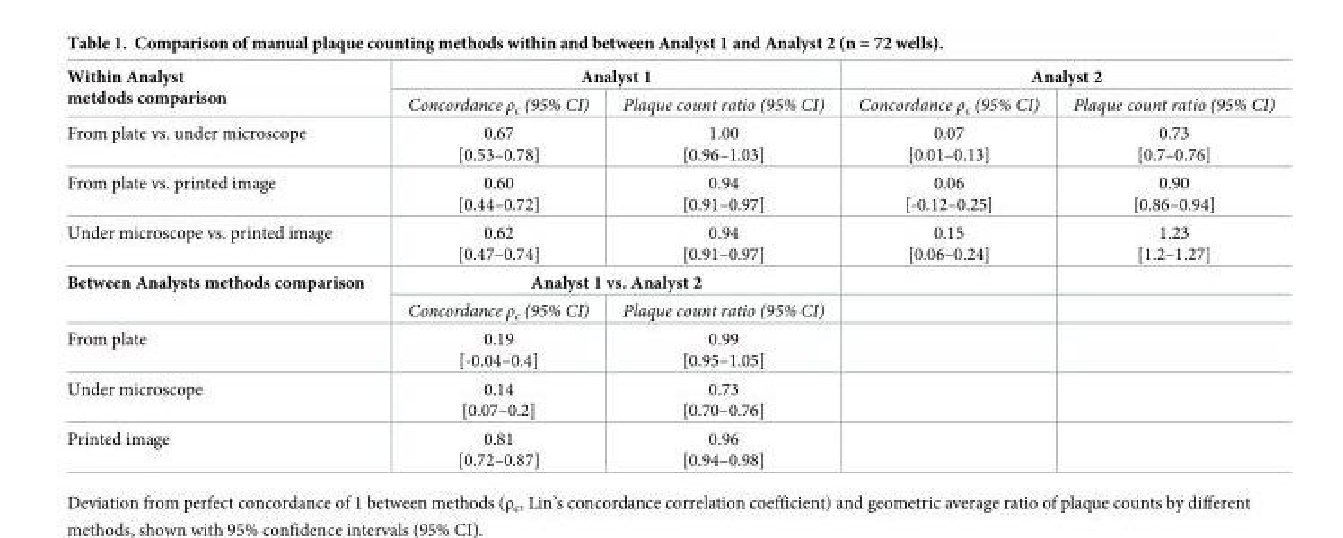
<table><tbody><tr><td rowspan="2">Within Analyst metdods comparison</td><td colspan="2">Analyst 1</td><td colspan="2">Analyst 2</td></tr><tr><td>Concordance ρ<sub>c</sub> (95% CI)</td><td>Plaque count ratio (95% CI)</td><td>Concordance ρ<sub>c</sub> (95% CI)</td><td>Plaque count ratio (95% CI)</td></tr><tr><td>From plate vs. under microscope</td><td>0.67 [0.53–0.78]</td><td>1.00 [0.96–1.03]</td><td>0.07 [0.01–0.13]</td><td>0.73 [0.7–0.76]</td></tr><tr><td>From plate vs. printed image</td><td>0.60 [0.44–0.72]</td><td>0.94 [0.91–0.97]</td><td>0.06 [-0.12–0.25]</td><td>0.90 [0.86–0.94]</td></tr><tr><td>Under microscope vs. printed image</td><td>0.62 [0.47–0.74]</td><td>0.94 [0.91–0.97]</td><td>0.15 [0.06–0.24]</td><td>1.23 [1.2–1.27]</td></tr><tr><td rowspan="2">Between Analysts methods comparison</td><td colspan="2">Analyst 1 vs. Analyst 2</td><td></td><td></td></tr><tr><td>Concordance ρ<sub>c</sub> (95% CI)</td><td>Plaque count ratio (95% CI)</td><td></td><td></td></tr><tr><td>From plate</td><td>0.19 [-0.04–0.4]</td><td>0.99 [0.95–1.05]</td><td></td><td></td></tr><tr><td>Under microscope</td><td>0.14 [0.07–0.2]</td><td>0.73 [0.70–0.76]</td><td></td><td></td></tr><tr><td>Printed image</td><td>0.81 [0.72–0.87]</td><td>0.96 [0.94–0.98]</td><td></td><td></td></tr></tbody></table>